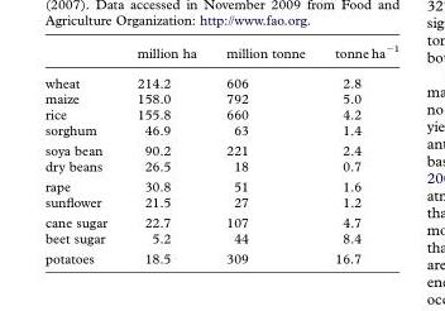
<table><thead><tr><td></td><td>million ha</td><td>million tonne</td><td>tonne ha<sup>−1</sup></td></tr></thead><tbody><tr><td>wheat</td><td>214.2</td><td>606</td><td>2.8</td></tr><tr><td>maize</td><td>158.0</td><td>792</td><td>5.0</td></tr><tr><td>rice</td><td>155.8</td><td>660</td><td>4.2</td></tr><tr><td>sorghum</td><td>46.9</td><td>63</td><td>1.4</td></tr><tr><td>soya bean</td><td>90.2</td><td>221</td><td>2.4</td></tr><tr><td>dry beans</td><td>26.5</td><td>18</td><td>0.7</td></tr><tr><td>rape</td><td>30.8</td><td>51</td><td>1.6</td></tr><tr><td>sunflower</td><td>21.5</td><td>27</td><td>1.2</td></tr><tr><td>cane sugar</td><td>22.7</td><td>107</td><td>4.7</td></tr><tr><td>beet sugar</td><td>5.2</td><td>44</td><td>8.4</td></tr><tr><td>potatoes</td><td>18.5</td><td>309</td><td>16.7</td></tr></tbody></table>